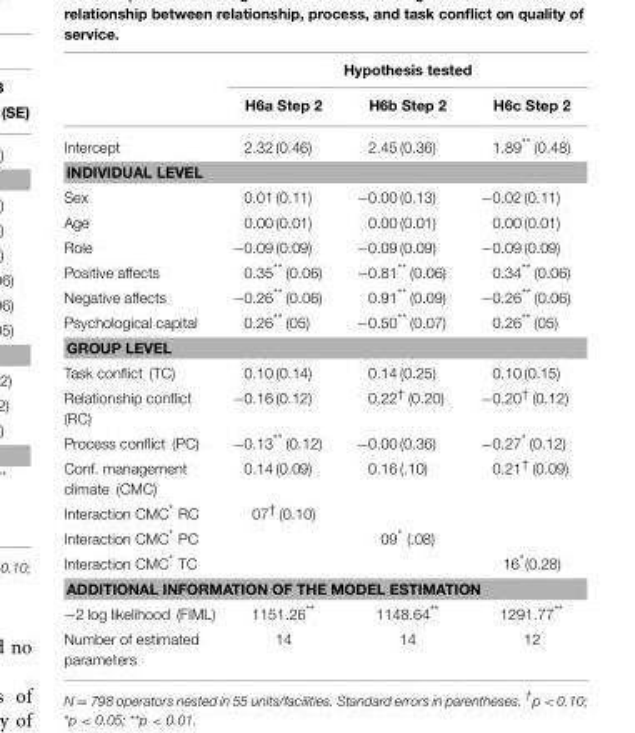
<table><thead><tr><td rowspan="2"></td><td colspan="3">Hypothesis tested</td></tr><tr><td>H6a Step 2</td><td>H6b Step 2</td><td>H6c Step 2</td></tr></thead><tbody><tr><td>Intercept</td><td>2.32 (0.46)</td><td>2.45 (0.36)</td><td>1.89** (0.48)</td></tr><tr><td colspan="4">INDIVIDUAL LEVEL</td></tr><tr><td>Sex</td><td>0.01 (0.11)</td><td>−0.00 (0.13)</td><td>−0.02 (0.11)</td></tr><tr><td>Age</td><td>0.00 (0.01)</td><td>0.00 (0.01)</td><td>0.00 (0.01)</td></tr><tr><td>Role</td><td>−0.09 (0.09)</td><td>−0.09 (0.09)</td><td>−0.09 (0.09)</td></tr><tr><td>Positive affects</td><td>0.35** (0.06)</td><td>−0.81** (0.06)</td><td>0.34** (0.06)</td></tr><tr><td>Negative affects</td><td>−0.26** (0.06)</td><td>0.91** (0.09)</td><td>−0.26** (0.06)</td></tr><tr><td>Psychological capital</td><td>0.26** (05)</td><td>−0.50** (0.07)</td><td>0.26** (05)</td></tr><tr><td colspan="4">GROUP LEVEL</td></tr><tr><td>Task conflict (TC)</td><td>0.10 (0.14)</td><td>0.14 (0.25)</td><td>0.10 (0.15)</td></tr><tr><td>Relationship conflict (RC)</td><td>−0.16 (0.12)</td><td>0.22<sup>†</sup> (0.20)</td><td>−0.20<sup>†</sup> (0.12)</td></tr><tr><td>Process conflict (PC)</td><td>−0.13** (0.12)</td><td>−0.00 (0.36)</td><td>−0.27* (0.12)</td></tr><tr><td>Conf. management climate (CMC)</td><td>0.14 (0.09)</td><td>0.16 (.10)</td><td>0.21<sup>†</sup> (0.09)</td></tr><tr><td>Interaction CMC* RC</td><td>07<sup>†</sup> (0.10)</td><td></td><td></td></tr><tr><td>Interaction CMC* PC</td><td></td><td>09* (.08)</td><td></td></tr><tr><td>Interaction CMC* TC</td><td></td><td></td><td>16*(0.28)</td></tr><tr><td colspan="4">ADDITIONAL INFORMATION OF THE MODEL ESTIMATION</td></tr><tr><td>−2 log likelihood (FIML)</td><td>1151.26**</td><td>1148.64**</td><td>1291.77**</td></tr><tr><td>Number of estimated parameters</td><td>14</td><td>14</td><td>12</td></tr></tbody></table>